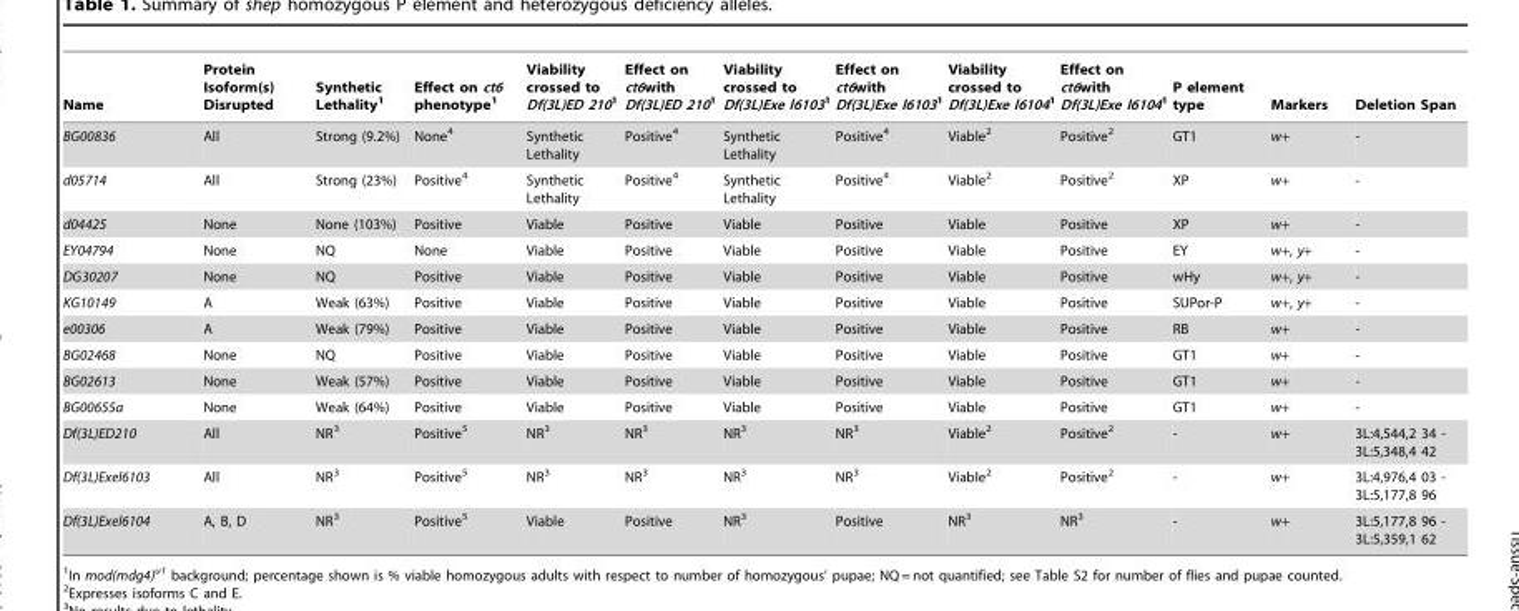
<table><thead><tr><td>Name</td><td>Protein Isoform(s) Disrupted</td><td>Synthetic Lethality<sup>1</sup></td><td>Effect on ct6 phenotype<sup>1</sup></td><td>Viability crossed to Df(3L)ED 2101</td><td>Effect on ct6with Df(3L)ED 2101</td><td>Viability crossed to Df(3L)Exe l61031</td><td>Effect on ct6with Df(3L)Exe l61031</td><td>Viability crossed to Df(3L)Exe l61041</td><td>Effect on ct6with Df(3L)Exe l61041</td><td>P element type</td><td>Markers</td><td>Deletion Span</td></tr></thead><tbody><tr><td>BG00836</td><td>All</td><td>Strong (9.2%)</td><td>None<sup>4</sup></td><td>Synthetic Lethality</td><td>Positive<sup>4</sup></td><td>Synthetic Lethality</td><td>Positive<sup>4</sup></td><td>Viable<sup>2</sup></td><td>Positive<sup>2</sup></td><td>GT1</td><td>w+</td><td>-</td></tr><tr><td>d05714</td><td>All</td><td>Strong (23%)</td><td>Positive<sup>4</sup></td><td>Synthetic Lethality</td><td>Positive<sup>4</sup></td><td>Synthetic Lethality</td><td>Positive<sup>4</sup></td><td>Viable<sup>2</sup></td><td>Positive<sup>2</sup></td><td>XP</td><td>w+</td><td>-</td></tr><tr><td>d04425</td><td>None</td><td>None (103%)</td><td>Positive</td><td>Viable</td><td>Positive</td><td>Viable</td><td>Positive</td><td>Viable</td><td>Positive</td><td>XP</td><td>w+</td><td>-</td></tr><tr><td>EY04794</td><td>None</td><td>NQ</td><td>None</td><td>Viable</td><td>Positive</td><td>Viable</td><td>Positive</td><td>Viable</td><td>Positive</td><td>EY</td><td>w+, y+</td><td>-</td></tr><tr><td>DG30207</td><td>None</td><td>NQ</td><td>Positive</td><td>Viable</td><td>Positive</td><td>Viable</td><td>Positive</td><td>Viable</td><td>Positive</td><td>wHy</td><td>w+, y+</td><td>-</td></tr><tr><td>KG10149</td><td>A</td><td>Weak (63%)</td><td>Positive</td><td>Viable</td><td>Positive</td><td>Viable</td><td>Positive</td><td>Viable</td><td>Positive</td><td>SUPor-P</td><td>w+, y+</td><td>-</td></tr><tr><td>e00306</td><td>A</td><td>Weak (79%)</td><td>Positive</td><td>Viable</td><td>Positive</td><td>Viable</td><td>Positive</td><td>Viable</td><td>Positive</td><td>RB</td><td>w+</td><td>-</td></tr><tr><td>BG02468</td><td>None</td><td>NQ</td><td>Positive</td><td>Viable</td><td>Positive</td><td>Viable</td><td>Positive</td><td>Viable</td><td>Positive</td><td>GT1</td><td>w+</td><td>-</td></tr><tr><td>BG02613</td><td>None</td><td>Weak (57%)</td><td>Positive</td><td>Viable</td><td>Positive</td><td>Viable</td><td>Positive</td><td>Viable</td><td>Positive</td><td>GT1</td><td>w+</td><td>-</td></tr><tr><td>BG00655a</td><td>None</td><td>Weak (64%)</td><td>Positive</td><td>Viable</td><td>Positive</td><td>Viable</td><td>Positive</td><td>Viable</td><td>Positive</td><td>GT1</td><td>w+</td><td>-</td></tr><tr><td>Df(3L)ED210</td><td>All</td><td>NR<sup>3</sup></td><td>Positive<sup>5</sup></td><td>NR<sup>3</sup></td><td>NR<sup>3</sup></td><td>NR<sup>3</sup></td><td>NR<sup>3</sup></td><td>Viable<sup>2</sup></td><td>Positive<sup>2</sup></td><td>-</td><td>w+</td><td>3L:4,544,2 34 - 3L:5,348,4 42</td></tr><tr><td>Df(3L)Exel6103</td><td>All</td><td>NR<sup>3</sup></td><td>Positive<sup>5</sup></td><td>NR<sup>3</sup></td><td>NR<sup>3</sup></td><td>NR<sup>3</sup></td><td>NR<sup>3</sup></td><td>Viable<sup>2</sup></td><td>Positive<sup>2</sup></td><td>-</td><td>w+</td><td>3L:4,976,4 03 - 3L:5,177,8 96</td></tr><tr><td>Df(3L)Exel6104</td><td>A, B, D</td><td>NR<sup>3</sup></td><td>Positive<sup>5</sup></td><td>Viable</td><td>Positive</td><td>NR<sup>3</sup></td><td>Positive</td><td>NR<sup>3</sup></td><td>NR<sup>3</sup></td><td>-</td><td>w+</td><td>3L:5,177,8 96 - 3L:5,359,1 62</td></tr></tbody></table>